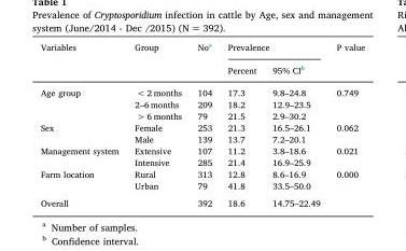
<table><thead><tr><td rowspan="2">Variables</td><td rowspan="2">Group</td><td rowspan="2">No<sup>a</sup></td><td colspan="2">Prevalence</td><td rowspan="2">P value</td></tr><tr><td>Percent</td><td>95% CI<sup>b</sup></td></tr></thead><tbody><tr><td rowspan="3">Age group</td><td>&lt; 2 months</td><td>104</td><td>17.3</td><td>9.8–24.8</td><td rowspan="3">0.749</td></tr><tr><td>2–6 months</td><td>209</td><td>18.2</td><td>12.9–23.5</td></tr><tr><td>&gt; 6 months</td><td>79</td><td>21.5</td><td>2.9–30.2</td></tr><tr><td rowspan="2">Sex</td><td>Female</td><td>253</td><td>21.3</td><td>16.5–26.1</td><td rowspan="2">0.062</td></tr><tr><td>Male</td><td>139</td><td>13.7</td><td>7.2–20.1</td></tr><tr><td rowspan="2">Management system</td><td>Extensive</td><td>107</td><td>11.2</td><td>3.8–18.6</td><td rowspan="2">0.021</td></tr><tr><td>Intensive</td><td>285</td><td>21.4</td><td>16.9–25.9</td></tr><tr><td rowspan="2">Farm location</td><td>Rural</td><td>313</td><td>12.8</td><td>8.6–16.9</td><td rowspan="2">0.000</td></tr><tr><td>Urban</td><td>79</td><td>41.8</td><td>33.5–50.0</td></tr><tr><td>Overall</td><td></td><td>392</td><td>18.6</td><td>14.75–22.49</td><td></td></tr></tbody></table>